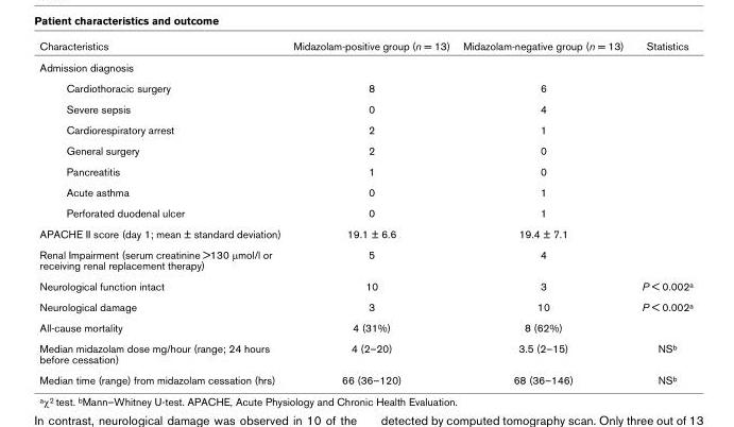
<table><thead><tr><td>Characteristics</td><td>Midazolam-positive group (n = 13)</td><td>Midazolam-negative group (n = 13)</td><td>Statistics</td></tr></thead><tbody><tr><td colspan="4">Admission diagnosis</td></tr><tr><td>Cardiothoracic surgery</td><td>8</td><td>6</td><td></td></tr><tr><td>Severe sepsis</td><td>0</td><td>4</td><td></td></tr><tr><td>Cardiorespiratory arrest</td><td>2</td><td>1</td><td></td></tr><tr><td>General surgery</td><td>2</td><td>0</td><td></td></tr><tr><td>Pancreatitis</td><td>1</td><td>0</td><td></td></tr><tr><td>Acute asthma</td><td>0</td><td>1</td><td></td></tr><tr><td>Perforated duodenal ulcer</td><td>0</td><td>1</td><td></td></tr><tr><td>APACHE II score (day 1; mean ± standard deviation)</td><td>19.1 ± 6.6</td><td>19.4 ± 7.1</td><td></td></tr><tr><td>Renal Impairment (serum creatinine &gt;130 µmol/l or receiving renal replacement therapy)</td><td>5</td><td>4</td><td></td></tr><tr><td>Neurological function intact</td><td>10</td><td>3</td><td>P &lt; 0.002a</td></tr><tr><td>Neurological damage</td><td>3</td><td>10</td><td>P &lt; 0.002a</td></tr><tr><td>All-cause mortality</td><td>4 (31%)</td><td>8 (62%)</td><td></td></tr><tr><td>Median midazolam dose mg/hour (range; 24 hours before cessation)</td><td>4 (2–20)</td><td>3.5 (2–15)</td><td>NSb</td></tr><tr><td>Median time (range) from midazolam cessation (hrs)</td><td>66 (36–120)</td><td>68 (36–146)</td><td>NSb</td></tr></tbody></table>